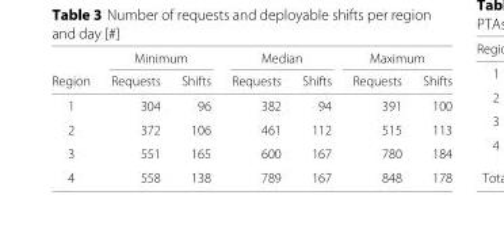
<table><thead><tr><td rowspan="2">Region</td><td colspan="2">Minimum</td><td colspan="2">Median</td><td colspan="2">Maximum</td></tr><tr><td>Requests</td><td>Shifts</td><td>Requests</td><td>Shifts</td><td>Requests</td><td>Shifts</td></tr></thead><tbody><tr><td>1</td><td>304</td><td>96</td><td>382</td><td>94</td><td>391</td><td>100</td></tr><tr><td>2</td><td>372</td><td>106</td><td>461</td><td>112</td><td>515</td><td>113</td></tr><tr><td>3</td><td>551</td><td>165</td><td>600</td><td>167</td><td>780</td><td>184</td></tr><tr><td>4</td><td>558</td><td>138</td><td>789</td><td>167</td><td>848</td><td>178</td></tr></tbody></table>